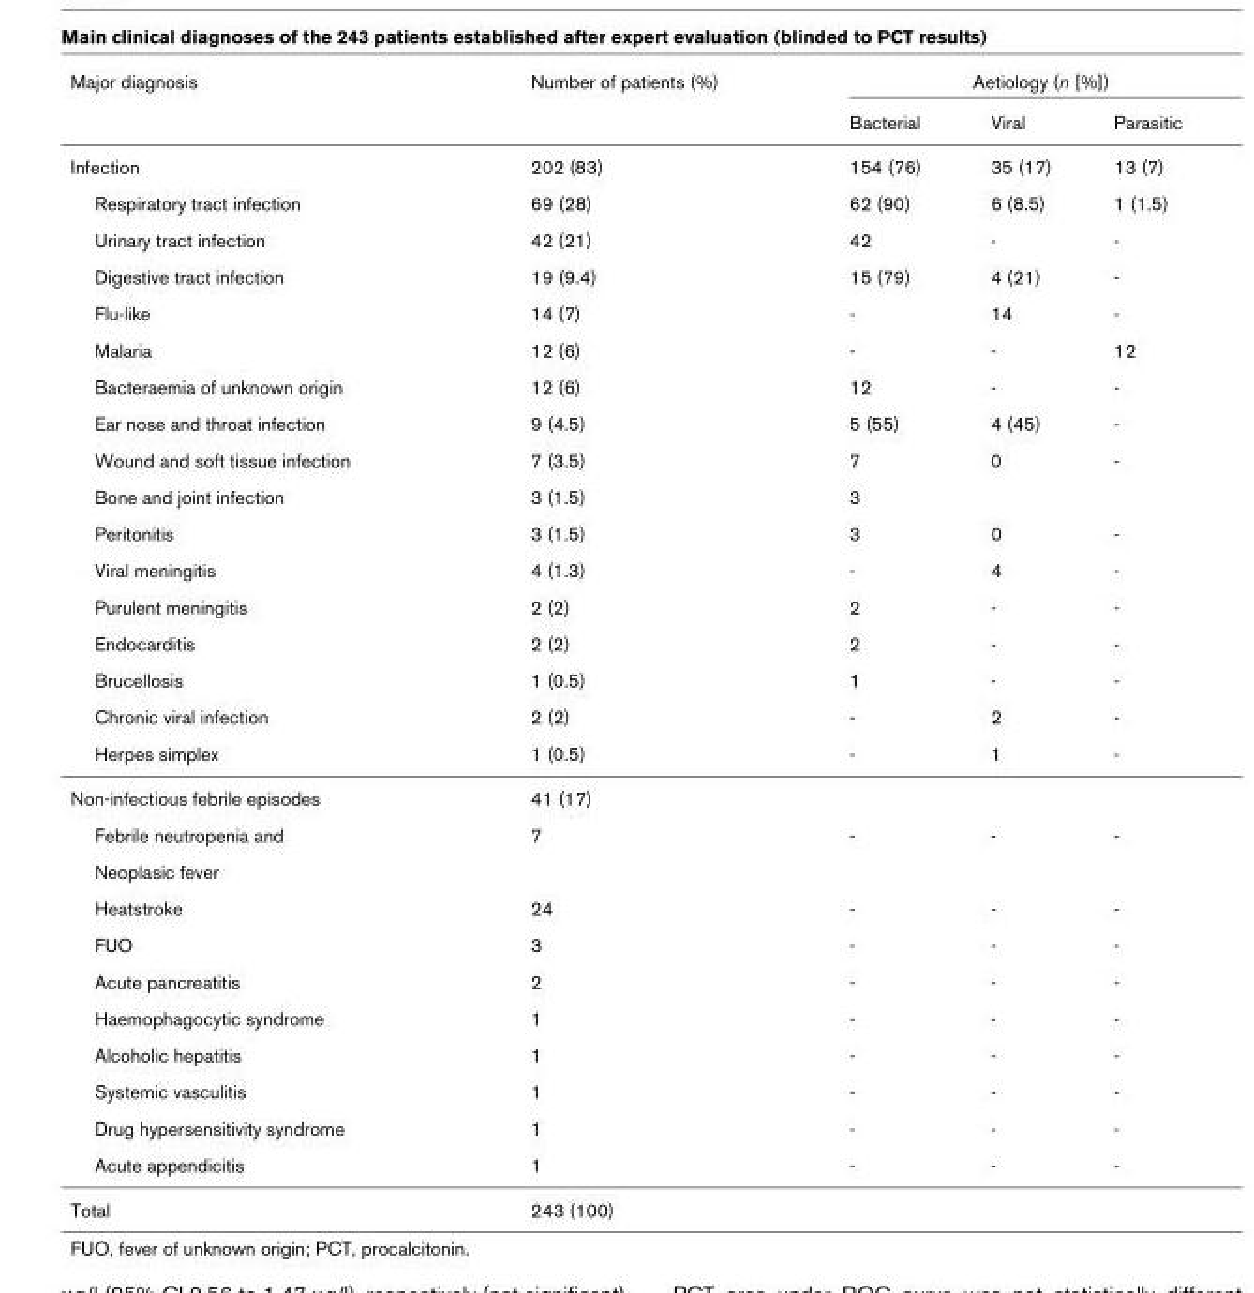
<table><thead><tr><td rowspan="2">Major diagnosis</td><td rowspan="2">Number of patients (%)</td><td colspan="3">Aetiology (n [%])</td></tr><tr><td>Bacterial</td><td>Viral</td><td>Parasitic</td></tr></thead><tbody><tr><td>Infection</td><td>202 (83)</td><td>154 (76)</td><td>35 (17)</td><td>13 (7)</td></tr><tr><td>Respiratory tract infection</td><td>69 (28)</td><td>62 (90)</td><td>6 (8.5)</td><td>1 (1.5)</td></tr><tr><td>Urinary tract infection</td><td>42 (21)</td><td>42</td><td>-</td><td>-</td></tr><tr><td>Digestive tract infection</td><td>19 (9.4)</td><td>15 (79)</td><td>4 (21)</td><td>-</td></tr><tr><td>Flu-like</td><td>14 (7)</td><td>-</td><td>14</td><td>-</td></tr><tr><td>Malaria</td><td>12 (6)</td><td>-</td><td>-</td><td>12</td></tr><tr><td>Bacteraemia of unknown origin</td><td>12 (6)</td><td>12</td><td>-</td><td>-</td></tr><tr><td>Ear nose and throat infection</td><td>9 (4.5)</td><td>5 (55)</td><td>4 (45)</td><td>-</td></tr><tr><td>Wound and soft tissue infection</td><td>7 (3.5)</td><td>7</td><td>0</td><td>-</td></tr><tr><td>Bone and joint infection</td><td>3 (1.5)</td><td>3</td><td></td><td></td></tr><tr><td>Peritonitis</td><td>3 (1.5)</td><td>3</td><td>0</td><td>-</td></tr><tr><td>Viral meningitis</td><td>4 (1.3)</td><td>-</td><td>4</td><td>-</td></tr><tr><td>Purulent meningitis</td><td>2 (2)</td><td>2</td><td>-</td><td>-</td></tr><tr><td>Endocarditis</td><td>2 (2)</td><td>2</td><td>-</td><td>-</td></tr><tr><td>Brucellosis</td><td>1 (0.5)</td><td>1</td><td>-</td><td>-</td></tr><tr><td>Chronic viral infection</td><td>2 (2)</td><td>-</td><td>2</td><td>-</td></tr><tr><td>Herpes simplex</td><td>1 (0.5)</td><td>-</td><td>1</td><td>-</td></tr><tr><td>Non-infectious febrile episodes</td><td>41 (17)</td><td></td><td></td><td></td></tr><tr><td>Febrile neutropenia and</td><td>7</td><td>-</td><td>-</td><td>-</td></tr><tr><td colspan="5">Neoplasic fever</td></tr><tr><td>Heatstroke</td><td>24</td><td>-</td><td>-</td><td>-</td></tr><tr><td>FUO</td><td>3</td><td>-</td><td>-</td><td>-</td></tr><tr><td>Acute pancreatitis</td><td>2</td><td>-</td><td>-</td><td>-</td></tr><tr><td>Haemophagocytic syndrome</td><td>1</td><td>-</td><td>-</td><td>-</td></tr><tr><td>Alcoholic hepatitis</td><td>1</td><td>-</td><td>-</td><td>-</td></tr><tr><td>Systemic vasculitis</td><td>1</td><td>-</td><td>-</td><td>-</td></tr><tr><td>Drug hypersensitivity syndrome</td><td>1</td><td>-</td><td>-</td><td>-</td></tr><tr><td>Acute appendicitis</td><td>1</td><td>-</td><td>-</td><td>-</td></tr><tr><td>Total</td><td>243 (100)</td><td></td><td></td><td></td></tr></tbody></table>